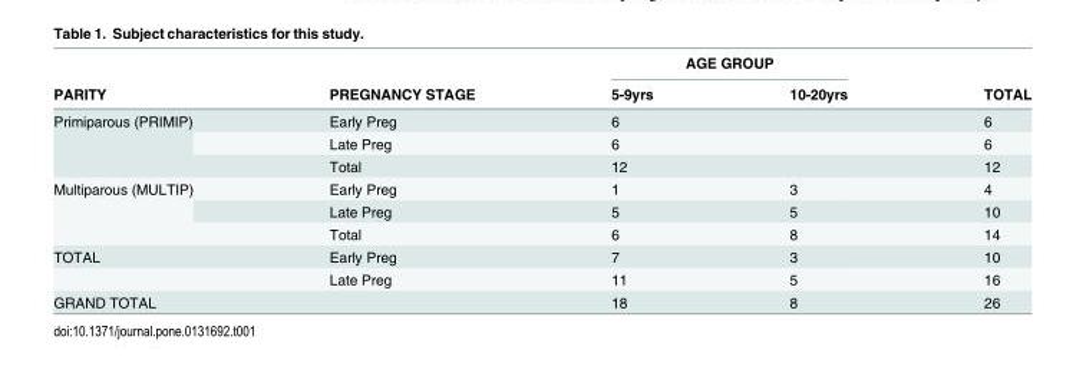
<table><thead><tr><td rowspan="2">PARITY</td><td rowspan="2">PREGNANCY STAGE</td><td colspan="2">AGE GROUP</td><td rowspan="2">TOTAL</td></tr><tr><td>5-9yrs</td><td>10-20yrs</td></tr></thead><tbody><tr><td rowspan="3">Primiparous (PRIMIP)</td><td>Early Preg</td><td>6</td><td></td><td>6</td></tr><tr><td>Late Preg</td><td>6</td><td></td><td>6</td></tr><tr><td>Total</td><td>12</td><td></td><td>12</td></tr><tr><td rowspan="3">Multiparous (MULTIP)</td><td>Early Preg</td><td>1</td><td>3</td><td>4</td></tr><tr><td>Late Preg</td><td>5</td><td>5</td><td>10</td></tr><tr><td>Total</td><td>6</td><td>8</td><td>14</td></tr><tr><td rowspan="2">TOTAL</td><td>Early Preg</td><td>7</td><td>3</td><td>10</td></tr><tr><td>Late Preg</td><td>11</td><td>5</td><td>16</td></tr><tr><td>GRAND TOTAL</td><td></td><td>18</td><td>8</td><td>26</td></tr></tbody></table>